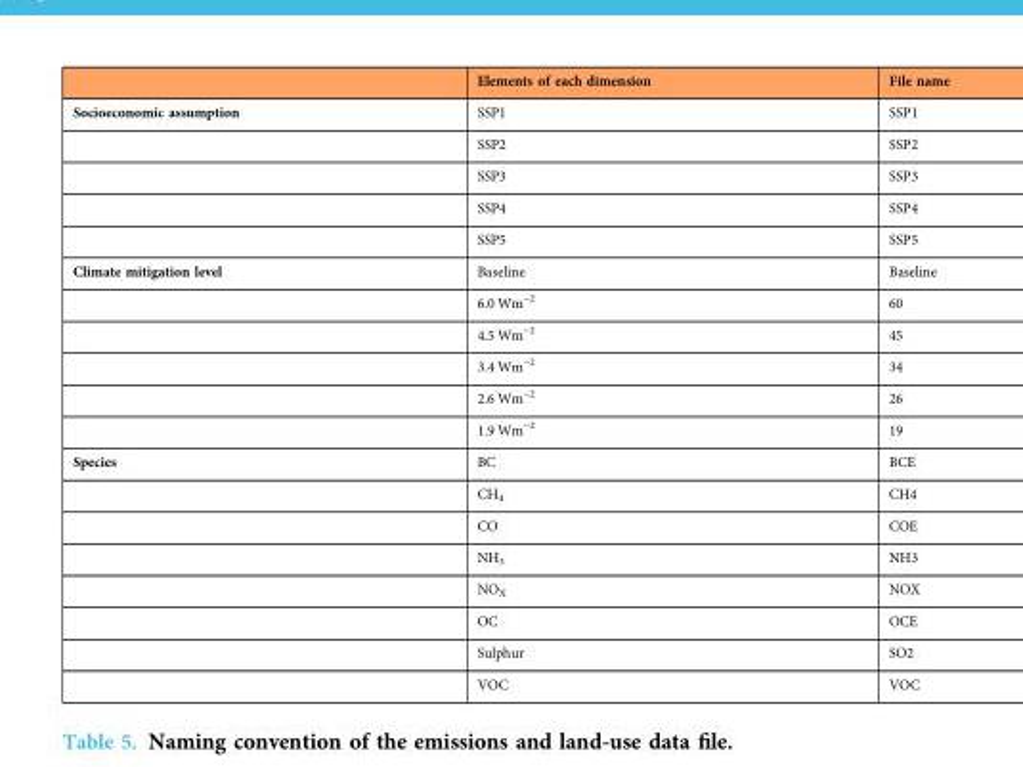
<table><thead><tr><td></td><td>Elements of each dimension</td><td>File name</td></tr></thead><tbody><tr><td rowspan="5">Socioeconomic assumption</td><td>SSP1</td><td>SSP1</td></tr><tr><td>SSP2</td><td>SSP2</td></tr><tr><td>SSP3</td><td>SSP3</td></tr><tr><td>SSP4</td><td>SSP4</td></tr><tr><td>SSP5</td><td>SSP5</td></tr><tr><td rowspan="6">Climate mitigation level</td><td>Baseline</td><td>Baseline</td></tr><tr><td>6.0 Wm<sup>−2</sup></td><td>60</td></tr><tr><td>4.5 Wm<sup>−2</sup></td><td>45</td></tr><tr><td>3.4 Wm<sup>−2</sup></td><td>34</td></tr><tr><td>2.6 Wm<sup>−2</sup></td><td>26</td></tr><tr><td>1.9 Wm<sup>−2</sup></td><td>19</td></tr><tr><td rowspan="8">Species</td><td>BC</td><td>BCE</td></tr><tr><td>CH<sub>4</sub></td><td>CH4</td></tr><tr><td>CO</td><td>COE</td></tr><tr><td>NH<sub>3</sub></td><td>NH3</td></tr><tr><td>NO<sub>X</sub></td><td>NOX</td></tr><tr><td>OC</td><td>OCE</td></tr><tr><td>Sulphur</td><td>SO2</td></tr><tr><td>VOC</td><td>VOC</td></tr></tbody></table>